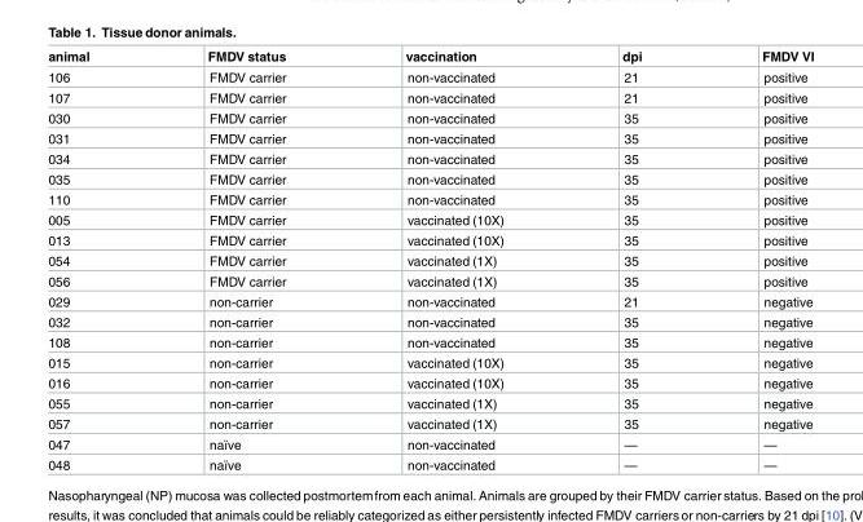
<table><thead><tr><td>animal</td><td>FMDV status</td><td>vaccination</td><td>dpi</td><td>FMDV VI</td></tr></thead><tbody><tr><td>106</td><td>FMDV carrier</td><td>non-vaccinated</td><td>21</td><td>positive</td></tr><tr><td>107</td><td>FMDV carrier</td><td>non-vaccinated</td><td>21</td><td>positive</td></tr><tr><td>030</td><td>FMDV carrier</td><td>non-vaccinated</td><td>35</td><td>positive</td></tr><tr><td>031</td><td>FMDV carrier</td><td>non-vaccinated</td><td>35</td><td>positive</td></tr><tr><td>034</td><td>FMDV carrier</td><td>non-vaccinated</td><td>35</td><td>positive</td></tr><tr><td>035</td><td>FMDV carrier</td><td>non-vaccinated</td><td>35</td><td>positive</td></tr><tr><td>110</td><td>FMDV carrier</td><td>non-vaccinated</td><td>35</td><td>positive</td></tr><tr><td>005</td><td>FMDV carrier</td><td>vaccinated (10X)</td><td>35</td><td>positive</td></tr><tr><td>013</td><td>FMDV carrier</td><td>vaccinated (10X)</td><td>35</td><td>positive</td></tr><tr><td>054</td><td>FMDV carrier</td><td>vaccinated (1X)</td><td>35</td><td>positive</td></tr><tr><td>056</td><td>FMDV carrier</td><td>vaccinated (1X)</td><td>35</td><td>positive</td></tr><tr><td>029</td><td>non-carrier</td><td>non-vaccinated</td><td>21</td><td>negative</td></tr><tr><td>032</td><td>non-carrier</td><td>non-vaccinated</td><td>35</td><td>negative</td></tr><tr><td>108</td><td>non-carrier</td><td>non-vaccinated</td><td>35</td><td>negative</td></tr><tr><td>015</td><td>non-carrier</td><td>vaccinated (10X)</td><td>35</td><td>negative</td></tr><tr><td>016</td><td>non-carrier</td><td>vaccinated (10X)</td><td>35</td><td>negative</td></tr><tr><td>055</td><td>non-carrier</td><td>vaccinated (1X)</td><td>35</td><td>negative</td></tr><tr><td>057</td><td>non-carrier</td><td>vaccinated (1X)</td><td>35</td><td>negative</td></tr><tr><td>047</td><td>naïve</td><td>non-vaccinated</td><td>—</td><td>—</td></tr><tr><td>048</td><td>naïve</td><td>non-vaccinated</td><td>—</td><td>—</td></tr></tbody></table>